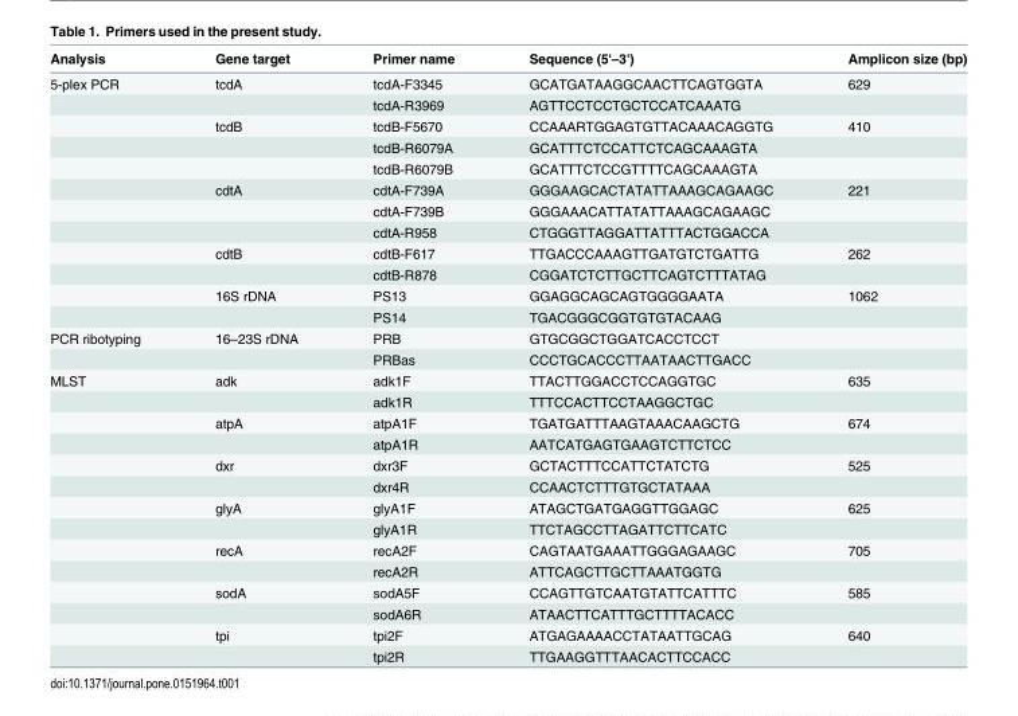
<table><thead><tr><td>Analysis</td><td>Gene target</td><td>Primer name</td><td>Sequence (5&#x27;–3&#x27;)</td><td>Amplicon size (bp)</td></tr></thead><tbody><tr><td rowspan="12">5-plex PCR</td><td>tcdA</td><td>tcdA-F3345</td><td>GCATGATAAGGCAACTTCAGTGGTA</td><td>629</td></tr><tr><td></td><td>tcdA-R3969</td><td>AGTTCCTCCTGCTCCATCAAATG</td><td></td></tr><tr><td>tcdB</td><td>tcdB-F5670</td><td>CCAAARTGGAGTGTTACAAACAGGTG</td><td>410</td></tr><tr><td></td><td>tcdB-R6079A</td><td>GCATTTCTCCATTCTCAGCAAAGTA</td><td></td></tr><tr><td></td><td>tcdB-R6079B</td><td>GCATTTCTCCGTTTTCAGCAAAGTA</td><td></td></tr><tr><td>cdtA</td><td>cdtA-F739A</td><td>GGGAAGCACTATATTAAAGCAGAAGC</td><td>221</td></tr><tr><td></td><td>cdtA-F739B</td><td>GGGAAACATTATATTAAAGCAGAAGC</td><td></td></tr><tr><td></td><td>cdtA-R958</td><td>CTGGGTTAGGATTATTTACTGGACCA</td><td></td></tr><tr><td>cdtB</td><td>cdtB-F617</td><td>TTGACCCAAAGTTGATGTCTGATTG</td><td>262</td></tr><tr><td></td><td>cdtB-R878</td><td>CGGATCTCTTGCTTCAGTCTTTATAG</td><td></td></tr><tr><td>16S rDNA</td><td>PS13</td><td>GGAGGCAGCAGTGGGGAATA</td><td>1062</td></tr><tr><td></td><td>PS14</td><td>TGACGGGCGGTGTGTACAAG</td><td></td></tr><tr><td rowspan="2">PCR ribotyping</td><td>16–23S rDNA</td><td>PRB</td><td>GTGCGGCTGGATCACCTCCT</td><td></td></tr><tr><td></td><td>PRBas</td><td>CCCTGCACCCTTAATAACTTGACC</td><td></td></tr><tr><td rowspan="14">MLST</td><td>adk</td><td>adk1F</td><td>TTACTTGGACCTCCAGGTGC</td><td>635</td></tr><tr><td></td><td>adk1R</td><td>TTTCCACTTCCTAAGGCTGC</td><td></td></tr><tr><td>atpA</td><td>atpA1F</td><td>TGATGATTTAAGTAAACAAGCTG</td><td>674</td></tr><tr><td></td><td>atpA1R</td><td>AATCATGAGTGAAGTCTTCTCC</td><td></td></tr><tr><td>dxr</td><td>dxr3F</td><td>GCTACTTTCCATTCTATCTG</td><td>525</td></tr><tr><td></td><td>dxr4R</td><td>CCAACTCTTTGTGCTATAAA</td><td></td></tr><tr><td>glyA</td><td>glyA1F</td><td>ATAGCTGATGAGGTTGGAGC</td><td>625</td></tr><tr><td></td><td>glyA1R</td><td>TTCTAGCCTTAGATTCTTCATC</td><td></td></tr><tr><td>recA</td><td>recA2F</td><td>CAGTAATGAAATTGGGAGAAGC</td><td>705</td></tr><tr><td></td><td>recA2R</td><td>ATTCAGCTTGCTTAAATGGTG</td><td></td></tr><tr><td>sodA</td><td>sodA5F</td><td>CCAGTTGTCAATGTATTCATTTC</td><td>585</td></tr><tr><td></td><td>sodA6R</td><td>ATAACTTCATTTGCTTTTACACC</td><td></td></tr><tr><td>tpi</td><td>tpi2F</td><td>ATGAGAAAACCTATAATTGCAG</td><td>640</td></tr><tr><td></td><td>tpi2R</td><td>TTGAAGGTTTAACACTTCCACC</td><td></td></tr></tbody></table>